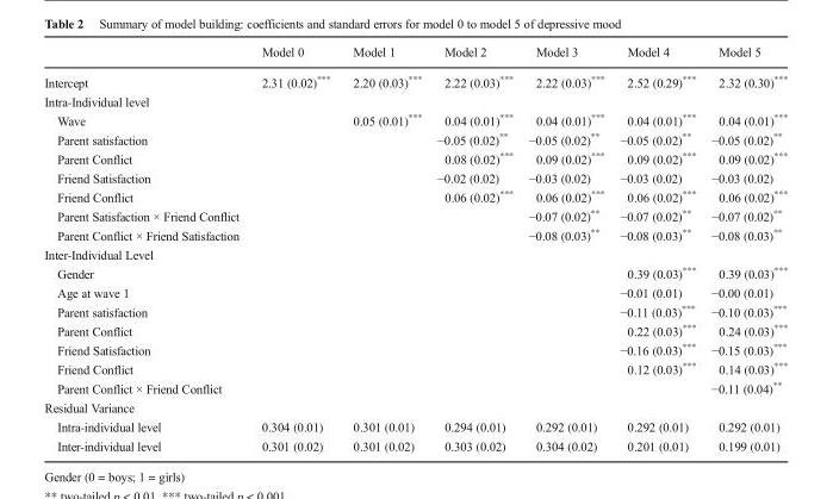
<table><thead><tr><td></td><td>Model 0</td><td>Model 1</td><td>Model 2</td><td>Model 3</td><td>Model 4</td><td>Model 5</td></tr></thead><tbody><tr><td>Intercept</td><td>2.31 (0.02)***</td><td>2.20 (0.03)***</td><td>2.22 (0.03)***</td><td>2.22 (0.03)***</td><td>2.52 (0.29)***</td><td>2.32 (0.30)***</td></tr><tr><td colspan="7">Intra-Individual level</td></tr><tr><td>Wave</td><td></td><td>0.05 (0.01)***</td><td>0.04 (0.01)***</td><td>0.04 (0.01)***</td><td>0.04 (0.01)***</td><td>0.04 (0.01)***</td></tr><tr><td>Parent satisfaction</td><td></td><td></td><td>−0.05 (0.02)**</td><td>−0.05 (0.02)**</td><td>−0.05 (0.02)**</td><td>−0.05 (0.02)**</td></tr><tr><td>Parent Conflict</td><td></td><td></td><td>0.08 (0.02)***</td><td>0.09 (0.02)***</td><td>0.09 (0.02)***</td><td>0.09 (0.02)***</td></tr><tr><td>Friend Satisfaction</td><td></td><td></td><td>−0.02 (0.02)</td><td>−0.03 (0.02)</td><td>−0.03 (0.02)</td><td>−0.03 (0.02)</td></tr><tr><td>Friend Conflict</td><td></td><td></td><td>0.06 (0.02)***</td><td>0.06 (0.02)***</td><td>0.06 (0.02)***</td><td>0.06 (0.02)***</td></tr><tr><td>Parent Satisfaction × Friend Conflict</td><td></td><td></td><td></td><td>−0.07 (0.02)**</td><td>−0.07 (0.02)**</td><td>−0.07 (0.02)**</td></tr><tr><td>Parent Conflict × Friend Satisfaction</td><td></td><td></td><td></td><td>−0.08 (0.03)**</td><td>−0.08 (0.03)**</td><td>−0.08 (0.03)**</td></tr><tr><td colspan="7">Inter-Individual Level</td></tr><tr><td>Gender</td><td></td><td></td><td></td><td></td><td>0.39 (0.03)***</td><td>0.39 (0.03)***</td></tr><tr><td>Age at wave 1</td><td></td><td></td><td></td><td></td><td>−0.01 (0.01)</td><td>−0.00 (0.01)</td></tr><tr><td>Parent satisfaction</td><td></td><td></td><td></td><td></td><td>−0.11 (0.03)***</td><td>−0.10 (0.03)***</td></tr><tr><td>Parent Conflict</td><td></td><td></td><td></td><td></td><td>0.22 (0.03)***</td><td>0.24 (0.03)***</td></tr><tr><td>Friend Satisfaction</td><td></td><td></td><td></td><td></td><td>−0.16 (0.03)***</td><td>−0.15 (0.03)***</td></tr><tr><td>Friend Conflict</td><td></td><td></td><td></td><td></td><td>0.12 (0.03)***</td><td>0.14 (0.03)***</td></tr><tr><td>Parent Conflict × Friend Conflict</td><td></td><td></td><td></td><td></td><td></td><td>−0.11 (0.04)**</td></tr><tr><td colspan="7">Residual Variance</td></tr><tr><td>Intra-individual level</td><td>0.304 (0.01)</td><td>0.301 (0.01)</td><td>0.294 (0.01)</td><td>0.292 (0.01)</td><td>0.292 (0.01)</td><td>0.292 (0.01)</td></tr><tr><td>Inter-individual level</td><td>0.301 (0.02)</td><td>0.301 (0.02)</td><td>0.303 (0.02)</td><td>0.304 (0.02)</td><td>0.201 (0.01)</td><td>0.199 (0.01)</td></tr></tbody></table>